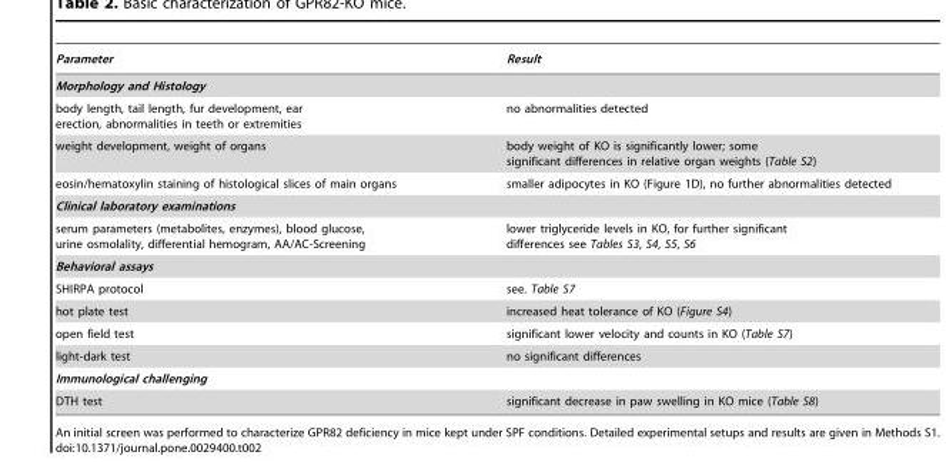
<table><thead><tr><td>Parameter</td><td>Result</td></tr></thead><tbody><tr><td colspan="2">Morphology and Histology</td></tr><tr><td>body length, tail length, fur development, ear erection, abnormalities in teeth or extremities</td><td>no abnormalities detected</td></tr><tr><td>weight development, weight of organs</td><td>body weight of KO is significantly lower; some significant differences in relative organ weights (Table S2)</td></tr><tr><td>eosin/hematoxylin staining of histological slices of main organs</td><td>smaller adipocytes in KO (Figure 1D), no further abnormalities detected</td></tr><tr><td colspan="2">Clinical laboratory examinations</td></tr><tr><td>serum parameters (metabolites, enzymes), blood glucose, urine osmolality, differential hemogram, AA/AC-Screening</td><td>lower triglyceride levels in KO, for further significant differences see Tables S3, S4, S5, S6</td></tr><tr><td colspan="2">Behavioral assays</td></tr><tr><td>SHIRPA protocol</td><td>see. Table S7</td></tr><tr><td>hot plate test</td><td>increased heat tolerance of KO (Figure S4)</td></tr><tr><td>open field test</td><td>significant lower velocity and counts in KO (Table S7)</td></tr><tr><td>light-dark test</td><td>no significant differences</td></tr><tr><td colspan="2">Immunological challenging</td></tr><tr><td>DTH test</td><td>significant decrease in paw swelling in KO mice (Table S8)</td></tr></tbody></table>